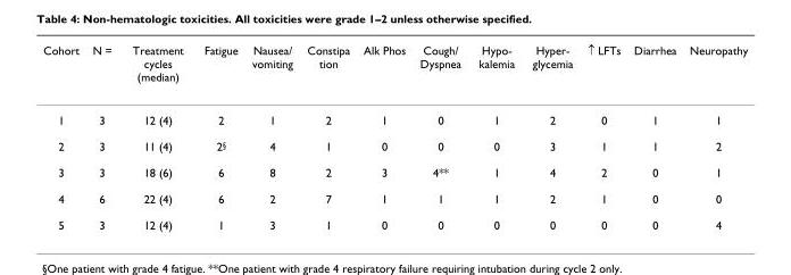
<table><thead><tr><td>Cohort</td><td>N =</td><td>Treatment cycles (median)</td><td>Fatigue</td><td>Nausea/ vomiting</td><td>Constipa tion</td><td>Alk Phos</td><td>Cough/ Dyspnea</td><td>Hypo- kalemia</td><td>Hyper- glycemia</td><td>↑ LFTs</td><td>Diarrhea</td><td>Neuropathy</td></tr></thead><tbody><tr><td>1</td><td>3</td><td>12 (4)</td><td>2</td><td>1</td><td>2</td><td>1</td><td>0</td><td>1</td><td>2</td><td>0</td><td>1</td><td>1</td></tr><tr><td>2</td><td>3</td><td>11 (4)</td><td>2<sup>§</sup></td><td>4</td><td>1</td><td>0</td><td>0</td><td>0</td><td>3</td><td>1</td><td>1</td><td>2</td></tr><tr><td>3</td><td>3</td><td>18 (6)</td><td>6</td><td>8</td><td>2</td><td>3</td><td>4**</td><td>1</td><td>4</td><td>2</td><td>0</td><td>1</td></tr><tr><td>4</td><td>6</td><td>22 (4)</td><td>6</td><td>2</td><td>7</td><td>1</td><td>1</td><td>1</td><td>2</td><td>1</td><td>0</td><td>0</td></tr><tr><td>5</td><td>3</td><td>12 (4)</td><td>1</td><td>3</td><td>1</td><td>0</td><td>0</td><td>0</td><td>0</td><td>0</td><td>0</td><td>4</td></tr></tbody></table>